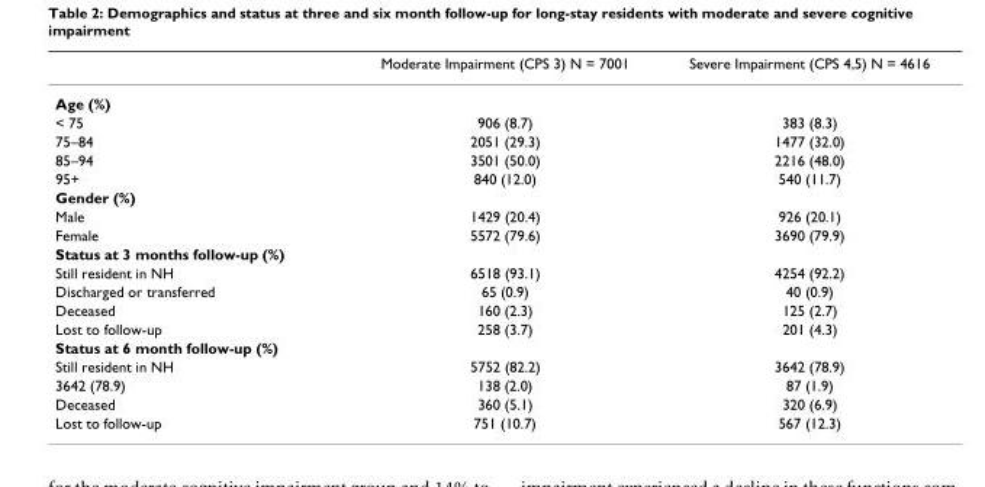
<table><thead><tr><td></td><td>Moderate Impairment (CPS 3) N = 7001</td><td>Severe Impairment (CPS 4,5) N = 4616</td></tr></thead><tbody><tr><td colspan="3">Age (%)</td></tr><tr><td>&lt; 75</td><td>906 (8.7)</td><td>383 (8.3)</td></tr><tr><td>75–84</td><td>2051 (29.3)</td><td>1477 (32.0)</td></tr><tr><td>85–94</td><td>3501 (50.0)</td><td>2216 (48.0)</td></tr><tr><td>95+</td><td>840 (12.0)</td><td>540 (11.7)</td></tr><tr><td colspan="3">Gender (%)</td></tr><tr><td>Male</td><td>1429 (20.4)</td><td>926 (20.1)</td></tr><tr><td>Female</td><td>5572 (79.6)</td><td>3690 (79.9)</td></tr><tr><td colspan="3">Status at 3 months follow-up (%)</td></tr><tr><td>Still resident in NH</td><td>6518 (93.1)</td><td>4254 (92.2)</td></tr><tr><td>Discharged or transferred</td><td>65 (0.9)</td><td>40 (0.9)</td></tr><tr><td>Deceased</td><td>160 (2.3)</td><td>125 (2.7)</td></tr><tr><td>Lost to follow-up</td><td>258 (3.7)</td><td>201 (4.3)</td></tr><tr><td colspan="3">Status at 6 month follow-up (%)</td></tr><tr><td>Still resident in NH</td><td>5752 (82.2)</td><td>3642 (78.9)</td></tr><tr><td>3642 (78.9)</td><td>138 (2.0)</td><td>87 (1.9)</td></tr><tr><td>Deceased</td><td>360 (5.1)</td><td>320 (6.9)</td></tr><tr><td>Lost to follow-up</td><td>751 (10.7)</td><td>567 (12.3)</td></tr></tbody></table>